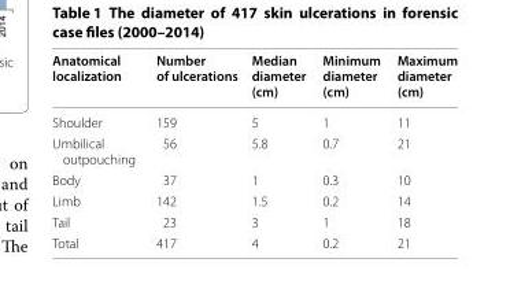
<table><thead><tr><td>Anatomical localization</td><td>Number of ulcerations</td><td>Median diameter (cm)</td><td>Minimum diameter (cm)</td><td>Maximum diameter (cm)</td></tr></thead><tbody><tr><td>Shoulder</td><td>159</td><td>5</td><td>1</td><td>11</td></tr><tr><td>Umbilical outpouching</td><td>56</td><td>5.8</td><td>0.7</td><td>21</td></tr><tr><td>Body</td><td>37</td><td>1</td><td>0.3</td><td>10</td></tr><tr><td>Limb</td><td>142</td><td>1.5</td><td>0.2</td><td>14</td></tr><tr><td>Tail</td><td>23</td><td>3</td><td>1</td><td>18</td></tr><tr><td>Total</td><td>417</td><td>4</td><td>0.2</td><td>21</td></tr></tbody></table>